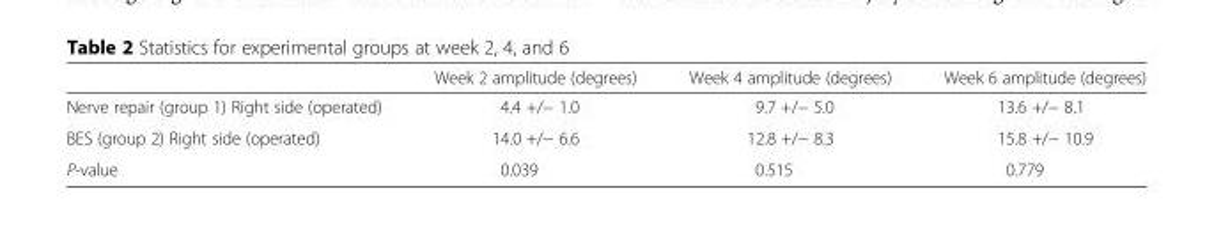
<table><thead><tr><td></td><td>Week 2 amplitude (degrees)</td><td>Week 4 amplitude (degrees)</td><td>Week 6 amplitude (degrees)</td></tr></thead><tbody><tr><td>Nerve repair (group 1) Right side (operated)</td><td>4.4 +/− 1.0</td><td>9.7 +/− 5.0</td><td>13.6 +/− 8.1</td></tr><tr><td>BES (group 2) Right side (operated)</td><td>14.0 +/− 6.6</td><td>12.8 +/− 8.3</td><td>15.8 +/− 10.9</td></tr><tr><td>P-value</td><td>0.039</td><td>0.515</td><td>0.779</td></tr></tbody></table>